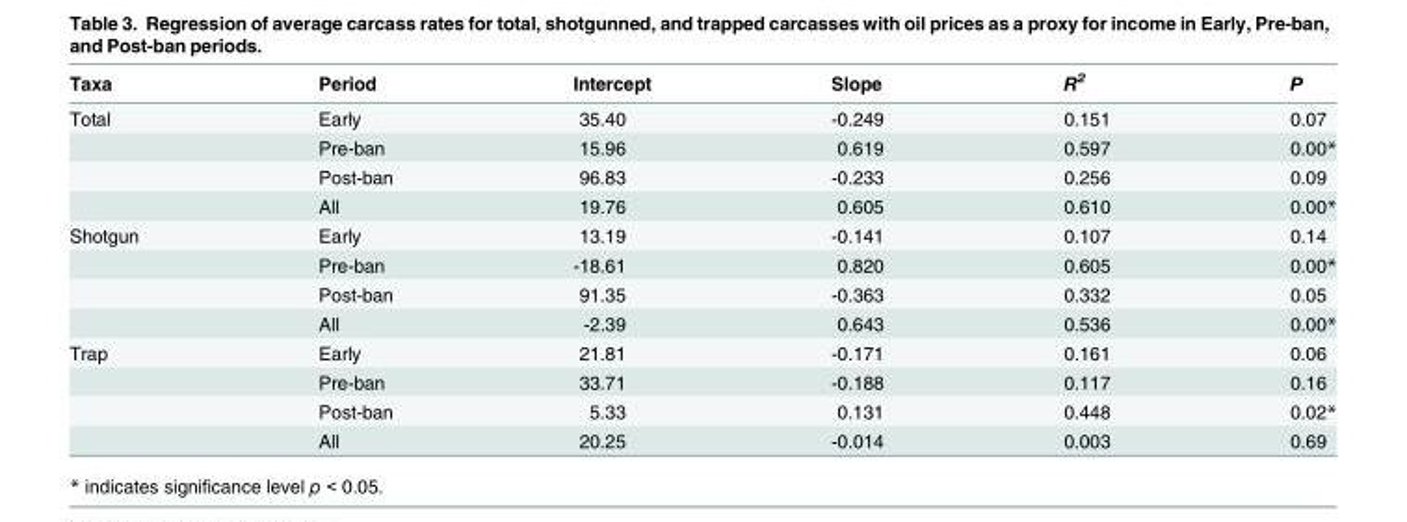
<table><thead><tr><td>Taxa</td><td>Period</td><td>Intercept</td><td>Slope</td><td>R<sup>2</sup></td><td>P</td></tr></thead><tbody><tr><td rowspan="4">Total</td><td>Early</td><td>35.40</td><td>-0.249</td><td>0.151</td><td>0.07</td></tr><tr><td>Pre-ban</td><td>15.96</td><td>0.619</td><td>0.597</td><td>0.00*</td></tr><tr><td>Post-ban</td><td>96.83</td><td>-0.233</td><td>0.256</td><td>0.09</td></tr><tr><td>All</td><td>19.76</td><td>0.605</td><td>0.610</td><td>0.00*</td></tr><tr><td rowspan="4">Shotgun</td><td>Early</td><td>13.19</td><td>-0.141</td><td>0.107</td><td>0.14</td></tr><tr><td>Pre-ban</td><td>-18.61</td><td>0.820</td><td>0.605</td><td>0.00*</td></tr><tr><td>Post-ban</td><td>91.35</td><td>-0.363</td><td>0.332</td><td>0.05</td></tr><tr><td>All</td><td>-2.39</td><td>0.643</td><td>0.536</td><td>0.00*</td></tr><tr><td rowspan="4">Trap</td><td>Early</td><td>21.81</td><td>-0.171</td><td>0.161</td><td>0.06</td></tr><tr><td>Pre-ban</td><td>33.71</td><td>-0.188</td><td>0.117</td><td>0.16</td></tr><tr><td>Post-ban</td><td>5.33</td><td>0.131</td><td>0.448</td><td>0.02*</td></tr><tr><td>All</td><td>20.25</td><td>-0.014</td><td>0.003</td><td>0.69</td></tr></tbody></table>